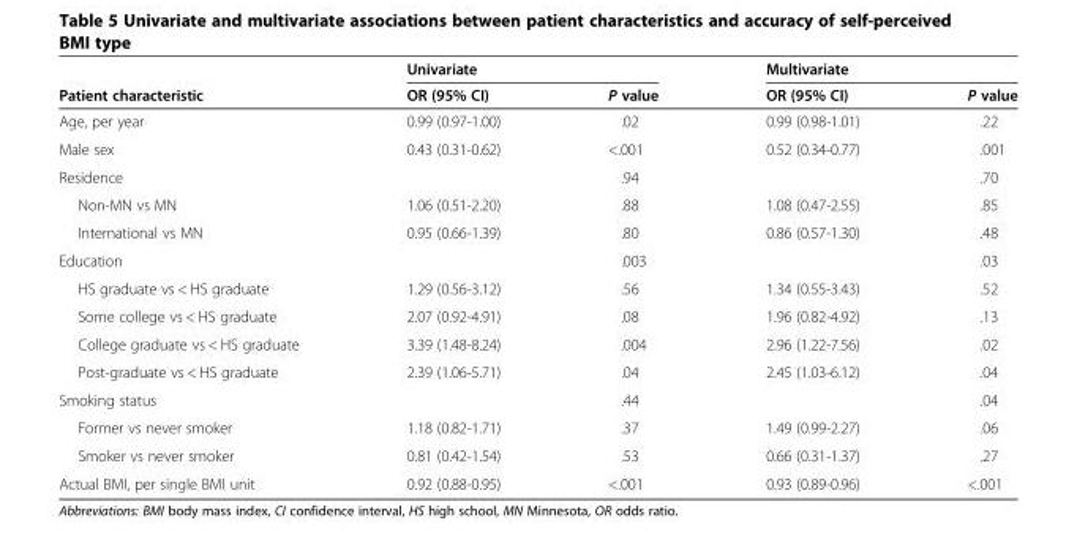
<table><thead><tr><td rowspan="2">Patient characteristic</td><td colspan="2">Univariate</td><td colspan="2">Multivariate</td></tr><tr><td>OR (95% CI)</td><td>P value</td><td>OR (95% CI)</td><td>P value</td></tr></thead><tbody><tr><td>Age, per year</td><td>0.99 (0.97-1.00)</td><td>.02</td><td>0.99 (0.98-1.01)</td><td>.22</td></tr><tr><td>Male sex</td><td>0.43 (0.31-0.62)</td><td>&lt;.001</td><td>0.52 (0.34-0.77)</td><td>.001</td></tr><tr><td>Residence</td><td></td><td>.94</td><td></td><td>.70</td></tr><tr><td>Non-MN vs MN</td><td>1.06 (0.51-2.20)</td><td>.88</td><td>1.08 (0.47-2.55)</td><td>.85</td></tr><tr><td>International vs MN</td><td>0.95 (0.66-1.39)</td><td>.80</td><td>0.86 (0.57-1.30)</td><td>.48</td></tr><tr><td>Education</td><td></td><td>.003</td><td></td><td>.03</td></tr><tr><td>HS graduate vs &lt; HS graduate</td><td>1.29 (0.56-3.12)</td><td>.56</td><td>1.34 (0.55-3.43)</td><td>.52</td></tr><tr><td>Some college vs &lt; HS graduate</td><td>2.07 (0.92-4.91)</td><td>.08</td><td>1.96 (0.82-4.92)</td><td>.13</td></tr><tr><td>College graduate vs &lt; HS graduate</td><td>3.39 (1.48-8.24)</td><td>.004</td><td>2.96 (1.22-7.56)</td><td>.02</td></tr><tr><td>Post-graduate vs &lt; HS graduate</td><td>2.39 (1.06-5.71)</td><td>.04</td><td>2.45 (1.03-6.12)</td><td>.04</td></tr><tr><td>Smoking status</td><td></td><td>.44</td><td></td><td>.04</td></tr><tr><td>Former vs never smoker</td><td>1.18 (0.82-1.71)</td><td>.37</td><td>1.49 (0.99-2.27)</td><td>.06</td></tr><tr><td>Smoker vs never smoker</td><td>0.81 (0.42-1.54)</td><td>.53</td><td>0.66 (0.31-1.37)</td><td>.27</td></tr><tr><td>Actual BMI, per single BMI unit</td><td>0.92 (0.88-0.95)</td><td>&lt;.001</td><td>0.93 (0.89-0.96)</td><td>&lt;.001</td></tr></tbody></table>